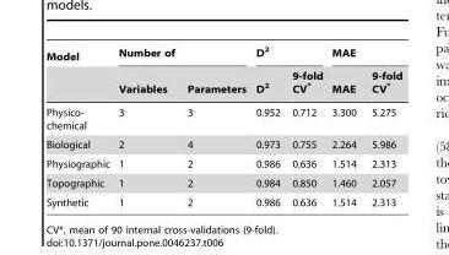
<table><thead><tr><td rowspan="2">Model</td><td colspan="2">Number of</td><td colspan="2">D<sup>2</sup></td><td colspan="2">MAE</td></tr><tr><td>Variables</td><td>Parameters</td><td>D<sup>2</sup></td><td>9-fold CV*</td><td>MAE</td><td>9-fold CV*</td></tr></thead><tbody><tr><td>Physico- chemical</td><td>3</td><td>3</td><td>0.952</td><td>0.712</td><td>3.300</td><td>5.275</td></tr><tr><td>Biological</td><td>2</td><td>4</td><td>0.973</td><td>0.755</td><td>2.264</td><td>5.986</td></tr><tr><td>Physiographic</td><td>1</td><td>2</td><td>0.986</td><td>0.636</td><td>1.514</td><td>2.313</td></tr><tr><td>Topographic</td><td>1</td><td>2</td><td>0.984</td><td>0.850</td><td>1.460</td><td>2.057</td></tr><tr><td>Synthetic</td><td>1</td><td>2</td><td>0.986</td><td>0.636</td><td>1.514</td><td>2.313</td></tr></tbody></table>